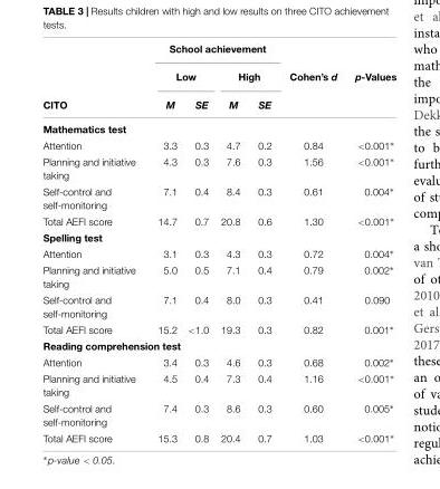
<table><thead><tr><td rowspan="3">CITO</td><td colspan="4">School achievement</td><td rowspan="3">Cohen’s d</td><td rowspan="3">p-Values</td></tr><tr><td colspan="2">Low</td><td colspan="2">High</td></tr><tr><td>M</td><td>SE</td><td>M</td><td>SE</td></tr></thead><tbody><tr><td colspan="7">Mathematics test</td></tr><tr><td>Attention</td><td>3.3</td><td>0.3</td><td>4.7</td><td>0.2</td><td>0.84</td><td>&lt;0.001∗</td></tr><tr><td>Planning and initiative taking</td><td>4.3</td><td>0.3</td><td>7.6</td><td>0.3</td><td>1.56</td><td>&lt;0.001∗</td></tr><tr><td>Self-control and self-monitoring</td><td>7.1</td><td>0.4</td><td>8.4</td><td>0.3</td><td>0.61</td><td>0.004∗</td></tr><tr><td>Total AEFI score</td><td>14.7</td><td>0.7</td><td>20.8</td><td>0.6</td><td>1.30</td><td>&lt;0.001∗</td></tr><tr><td colspan="7">Spelling test</td></tr><tr><td>Attention</td><td>3.1</td><td>0.3</td><td>4.3</td><td>0.3</td><td>0.72</td><td>0.004∗</td></tr><tr><td>Planning and initiative taking</td><td>5.0</td><td>0.5</td><td>7.1</td><td>0.4</td><td>0.79</td><td>0.002∗</td></tr><tr><td>Self-control and self-monitoring</td><td>7.1</td><td>0.4</td><td>8.0</td><td>0.3</td><td>0.41</td><td>0.090</td></tr><tr><td>Total AEFI score</td><td>15.2</td><td>&lt;1.0</td><td>19.3</td><td>0.3</td><td>0.82</td><td>0.001∗</td></tr><tr><td colspan="7">Reading comprehension test</td></tr><tr><td>Attention</td><td>3.4</td><td>0.3</td><td>4.6</td><td>0.3</td><td>0.68</td><td>0.002∗</td></tr><tr><td>Planning and initiative taking</td><td>4.5</td><td>0.4</td><td>7.3</td><td>0.4</td><td>1.16</td><td>&lt;0.001∗</td></tr><tr><td>Self-control and self-monitoring</td><td>7.4</td><td>0.3</td><td>8.6</td><td>0.3</td><td>0.60</td><td>0.005∗</td></tr><tr><td>Total AEFI score</td><td>15.3</td><td>0.8</td><td>20.4</td><td>0.7</td><td>1.03</td><td>&lt;0.001∗</td></tr></tbody></table>